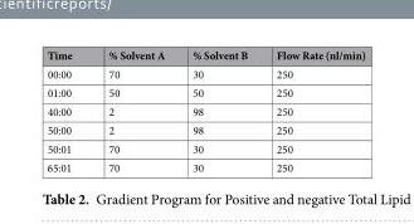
<table><thead><tr><td>Time</td><td>% Solvent A</td><td>% Solvent B</td><td>Flow Rate (nl/min)</td></tr></thead><tbody><tr><td>00:00</td><td>70</td><td>30</td><td>250</td></tr><tr><td>01:00</td><td>50</td><td>50</td><td>250</td></tr><tr><td>40:00</td><td>2</td><td>98</td><td>250</td></tr><tr><td>50:00</td><td>2</td><td>98</td><td>250</td></tr><tr><td>50:01</td><td>70</td><td>30</td><td>250</td></tr><tr><td>65:01</td><td>70</td><td>30</td><td>250</td></tr></tbody></table>